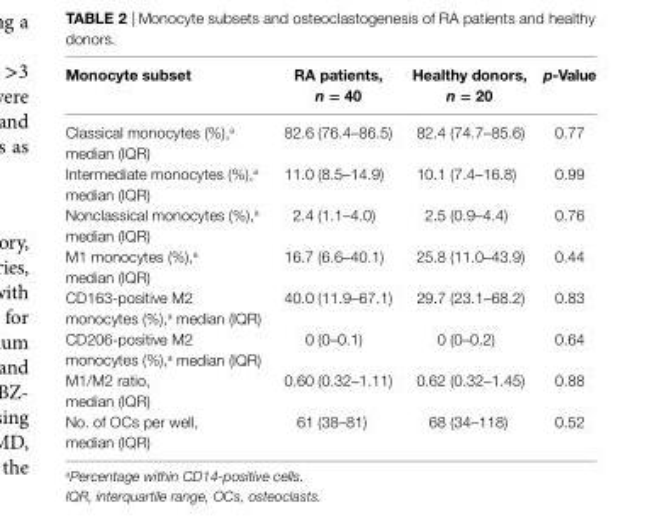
<table><thead><tr><td>Monocyte subset</td><td>ra patients, n = 40</td><td>healthy donors, n = 20</td><td>p-Value</td></tr></thead><tbody><tr><td>Classical monocytes (%),<sup>a</sup> median (IQR)</td><td>82.6 (76.4–86.5)</td><td>82.4 (74.7–85.6)</td><td>0.77</td></tr><tr><td>Intermediate monocytes (%),<sup>a</sup> median (IQR)</td><td>11.0 (8.5–14.9)</td><td>10.1 (7.4–16.8)</td><td>0.99</td></tr><tr><td>Nonclassical monocytes (%),<sup>a</sup> median (IQR)</td><td>2.4 (1.1–4.0)</td><td>2.5 (0.9–4.4)</td><td>0.76</td></tr><tr><td>M1 monocytes (%),<sup>a</sup> median (IQR)</td><td>16.7 (6.6–40.1)</td><td>25.8 (11.0–43.9)</td><td>0.44</td></tr><tr><td>CD163-positive M2 monocytes (%),<sup>a</sup> median (IQR)</td><td>40.0 (11.9–67.1)</td><td>29.7 (23.1–68.2)</td><td>0.83</td></tr><tr><td>CD206-positive M2 monocytes (%),<sup>a</sup> median (IQR)</td><td>0 (0–0.1)</td><td>0 (0–0.2)</td><td>0.64</td></tr><tr><td>M1/M2 ratio, median (IQR)</td><td>0.60 (0.32–1.11)</td><td>0.62 (0.32–1.45)</td><td>0.88</td></tr><tr><td>No. of OCs per well, median (IQR)</td><td>61 (38–81)</td><td>68 (34–118)</td><td>0.52</td></tr></tbody></table>